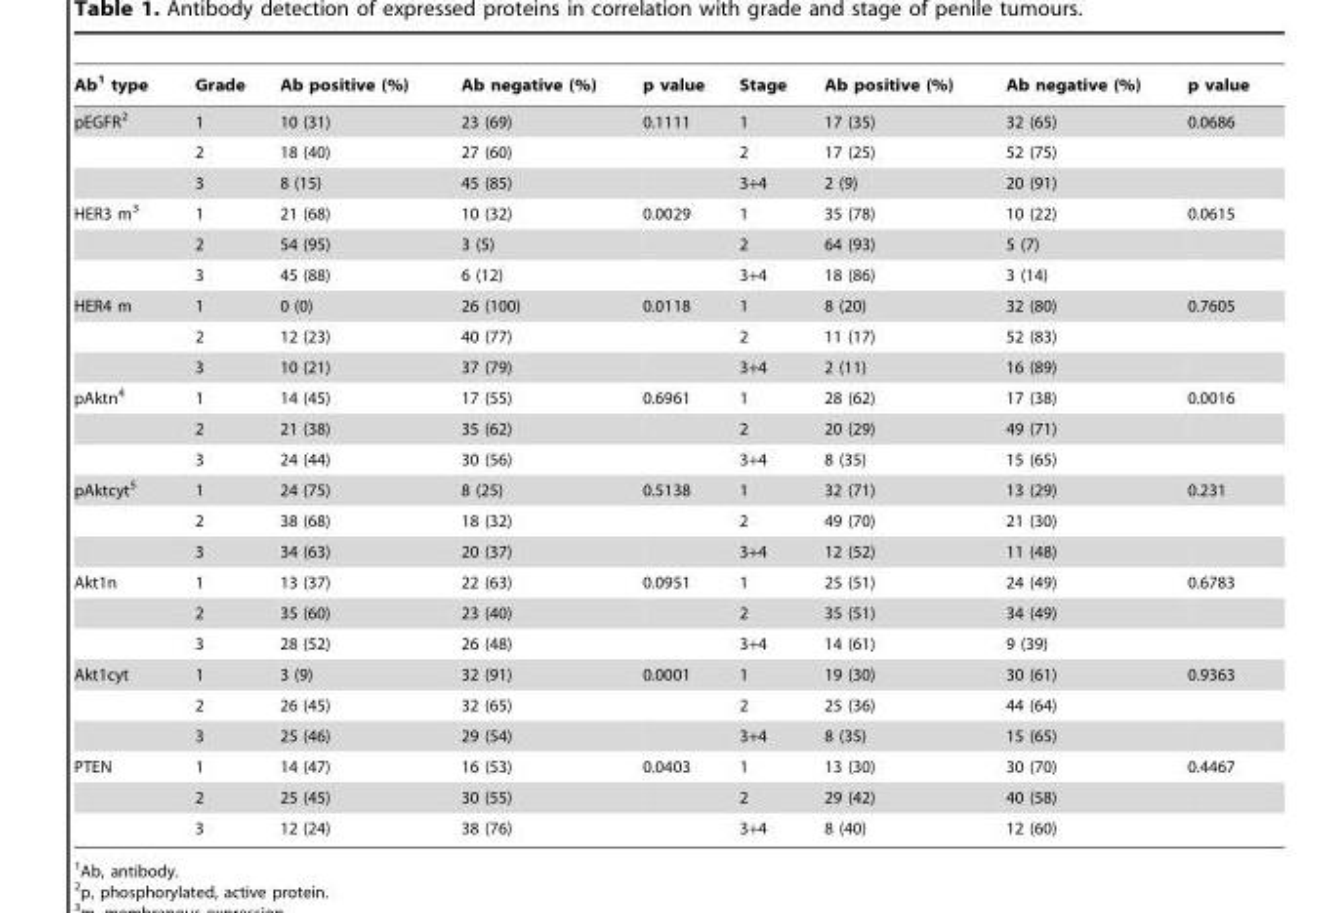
<table><thead><tr><td>Ab<sup>1</sup> type</td><td>Grade</td><td>Ab positive (%)</td><td>Ab negative (%)</td><td>p value</td><td>Stage</td><td>Ab positive (%)</td><td>Ab negative (%)</td><td>p value</td></tr></thead><tbody><tr><td rowspan="3">pEGFR<sup>2</sup></td><td>1</td><td>10 (31)</td><td>23 (69)</td><td>0.1111</td><td>1</td><td>17 (35)</td><td>32 (65)</td><td>0.0686</td></tr><tr><td>2</td><td>18 (40)</td><td>27 (60)</td><td></td><td>2</td><td>17 (25)</td><td>52 (75)</td><td></td></tr><tr><td>3</td><td>8 (15)</td><td>45 (85)</td><td></td><td>3+4</td><td>2 (9)</td><td>20 (91)</td><td></td></tr><tr><td rowspan="3">HER3 m<sup>3</sup></td><td>1</td><td>21 (68)</td><td>10 (32)</td><td>0.0029</td><td>1</td><td>35 (78)</td><td>10 (22)</td><td>0.0615</td></tr><tr><td>2</td><td>54 (95)</td><td>3 (5)</td><td></td><td>2</td><td>64 (93)</td><td>5 (7)</td><td></td></tr><tr><td>3</td><td>45 (88)</td><td>6 (12)</td><td></td><td>3+4</td><td>18 (86)</td><td>3 (14)</td><td></td></tr><tr><td rowspan="3">HER4 m</td><td>1</td><td>0 (0)</td><td>26 (100)</td><td>0.0118</td><td>1</td><td>8 (20)</td><td>32 (80)</td><td>0.7605</td></tr><tr><td>2</td><td>12 (23)</td><td>40 (77)</td><td></td><td>2</td><td>11 (17)</td><td>52 (83)</td><td></td></tr><tr><td>3</td><td>10 (21)</td><td>37 (79)</td><td></td><td>3+4</td><td>2 (11)</td><td>16 (89)</td><td></td></tr><tr><td rowspan="3">pAktn<sup>4</sup></td><td>1</td><td>14 (45)</td><td>17 (55)</td><td>0.6961</td><td>1</td><td>28 (62)</td><td>17 (38)</td><td>0.0016</td></tr><tr><td>2</td><td>21 (38)</td><td>35 (62)</td><td></td><td>2</td><td>20 (29)</td><td>49 (71)</td><td></td></tr><tr><td>3</td><td>24 (44)</td><td>30 (56)</td><td></td><td>3+4</td><td>8 (35)</td><td>15 (65)</td><td></td></tr><tr><td rowspan="3">pAktcyt<sup>5</sup></td><td>1</td><td>24 (75)</td><td>8 (25)</td><td>0.5138</td><td>1</td><td>32 (71)</td><td>13 (29)</td><td>0.231</td></tr><tr><td>2</td><td>38 (68)</td><td>18 (32)</td><td></td><td>2</td><td>49 (70)</td><td>21 (30)</td><td></td></tr><tr><td>3</td><td>34 (63)</td><td>20 (37)</td><td></td><td>3+4</td><td>12 (52)</td><td>11 (48)</td><td></td></tr><tr><td rowspan="3">Akt1n</td><td>1</td><td>13 (37)</td><td>22 (63)</td><td>0.0951</td><td>1</td><td>25 (51)</td><td>24 (49)</td><td>0.6783</td></tr><tr><td>2</td><td>35 (60)</td><td>23 (40)</td><td></td><td>2</td><td>35 (51)</td><td>34 (49)</td><td></td></tr><tr><td>3</td><td>28 (52)</td><td>26 (48)</td><td></td><td>3+4</td><td>14 (61)</td><td>9 (39)</td><td></td></tr><tr><td rowspan="3">Akt1cyt</td><td>1</td><td>3 (9)</td><td>32 (91)</td><td>0.0001</td><td>1</td><td>19 (30)</td><td>30 (61)</td><td>0.9363</td></tr><tr><td>2</td><td>26 (45)</td><td>32 (65)</td><td></td><td>2</td><td>25 (36)</td><td>44 (64)</td><td></td></tr><tr><td>3</td><td>25 (46)</td><td>29 (54)</td><td></td><td>3+4</td><td>8 (35)</td><td>15 (65)</td><td></td></tr><tr><td rowspan="3">PTEN</td><td>1</td><td>14 (47)</td><td>16 (53)</td><td>0.0403</td><td>1</td><td>13 (30)</td><td>30 (70)</td><td>0.4467</td></tr><tr><td>2</td><td>25 (45)</td><td>30 (55)</td><td></td><td>2</td><td>29 (42)</td><td>40 (58)</td><td></td></tr><tr><td>3</td><td>12 (24)</td><td>38 (76)</td><td></td><td>3+4</td><td>8 (40)</td><td>12 (60)</td><td></td></tr></tbody></table>